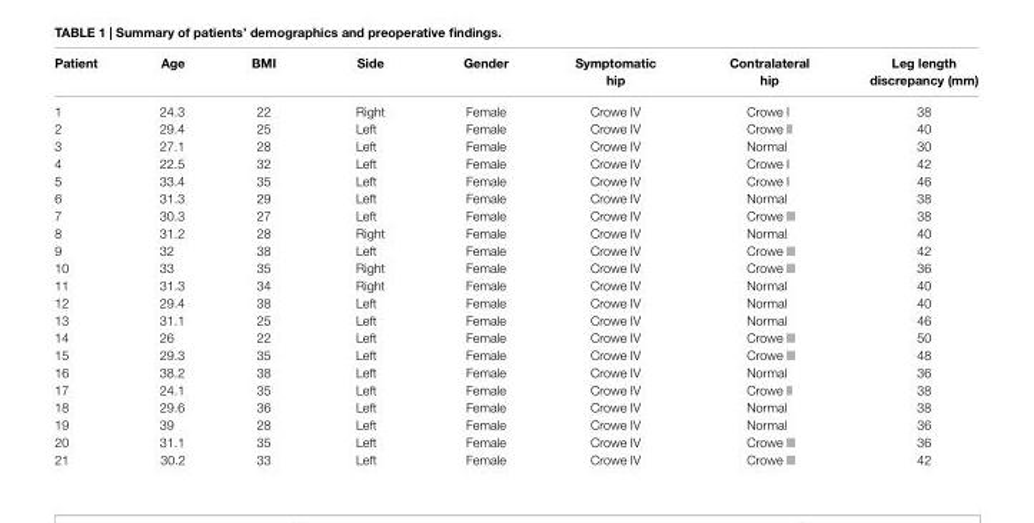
<table><thead><tr><td>Patient</td><td>age</td><td>BMi</td><td>side</td><td>gender</td><td>symptomatic hip</td><td>contralateral hip</td><td>leg length discrepancy (mm)</td></tr></thead><tbody><tr><td>1</td><td>24.3</td><td>22</td><td>Right</td><td>Female</td><td>Crowe IV</td><td>Crowe I</td><td>38</td></tr><tr><td>2</td><td>29.4</td><td>25</td><td>Left</td><td>Female</td><td>Crowe IV</td><td>Crowe II</td><td>40</td></tr><tr><td>3</td><td>27.1</td><td>28</td><td>Left</td><td>Female</td><td>Crowe IV</td><td>Normal</td><td>30</td></tr><tr><td>4</td><td>22.5</td><td>32</td><td>Left</td><td>Female</td><td>Crowe IV</td><td>Crowe I</td><td>42</td></tr><tr><td>5</td><td>33.4</td><td>35</td><td>Left</td><td>Female</td><td>Crowe IV</td><td>Crowe I</td><td>46</td></tr><tr><td>6</td><td>31.3</td><td>29</td><td>Left</td><td>Female</td><td>Crowe IV</td><td>Normal</td><td>38</td></tr><tr><td>7</td><td>30.3</td><td>27</td><td>Left</td><td>Female</td><td>Crowe IV</td><td>Crowe III</td><td>38</td></tr><tr><td>8</td><td>31.2</td><td>28</td><td>Right</td><td>Female</td><td>Crowe IV</td><td>Normal</td><td>40</td></tr><tr><td>9</td><td>32</td><td>38</td><td>Left</td><td>Female</td><td>Crowe IV</td><td>Crowe III</td><td>42</td></tr><tr><td>10</td><td>33</td><td>35</td><td>Right</td><td>Female</td><td>Crowe IV</td><td>Crowe III</td><td>36</td></tr><tr><td>11</td><td>31.3</td><td>34</td><td>Right</td><td>Female</td><td>Crowe IV</td><td>Normal</td><td>40</td></tr><tr><td>12</td><td>29.4</td><td>38</td><td>Left</td><td>Female</td><td>Crowe IV</td><td>Normal</td><td>40</td></tr><tr><td>13</td><td>31.1</td><td>25</td><td>Left</td><td>Female</td><td>Crowe IV</td><td>Normal</td><td>46</td></tr><tr><td>14</td><td>26</td><td>22</td><td>Left</td><td>Female</td><td>Crowe IV</td><td>Crowe III</td><td>50</td></tr><tr><td>15</td><td>29.3</td><td>35</td><td>Left</td><td>Female</td><td>Crowe IV</td><td>Crowe III</td><td>48</td></tr><tr><td>16</td><td>38.2</td><td>38</td><td>Left</td><td>Female</td><td>Crowe IV</td><td>Normal</td><td>36</td></tr><tr><td>17</td><td>24.1</td><td>35</td><td>Left</td><td>Female</td><td>Crowe IV</td><td>Crowe II</td><td>38</td></tr><tr><td>18</td><td>29.6</td><td>36</td><td>Left</td><td>Female</td><td>Crowe IV</td><td>Normal</td><td>38</td></tr><tr><td>19</td><td>39</td><td>28</td><td>Left</td><td>Female</td><td>Crowe IV</td><td>Normal</td><td>36</td></tr><tr><td>20</td><td>31.1</td><td>35</td><td>Left</td><td>Female</td><td>Crowe IV</td><td>Crowe III</td><td>36</td></tr><tr><td>21</td><td>30.2</td><td>33</td><td>Left</td><td>Female</td><td>Crowe IV</td><td>Crowe III</td><td>42</td></tr></tbody></table>